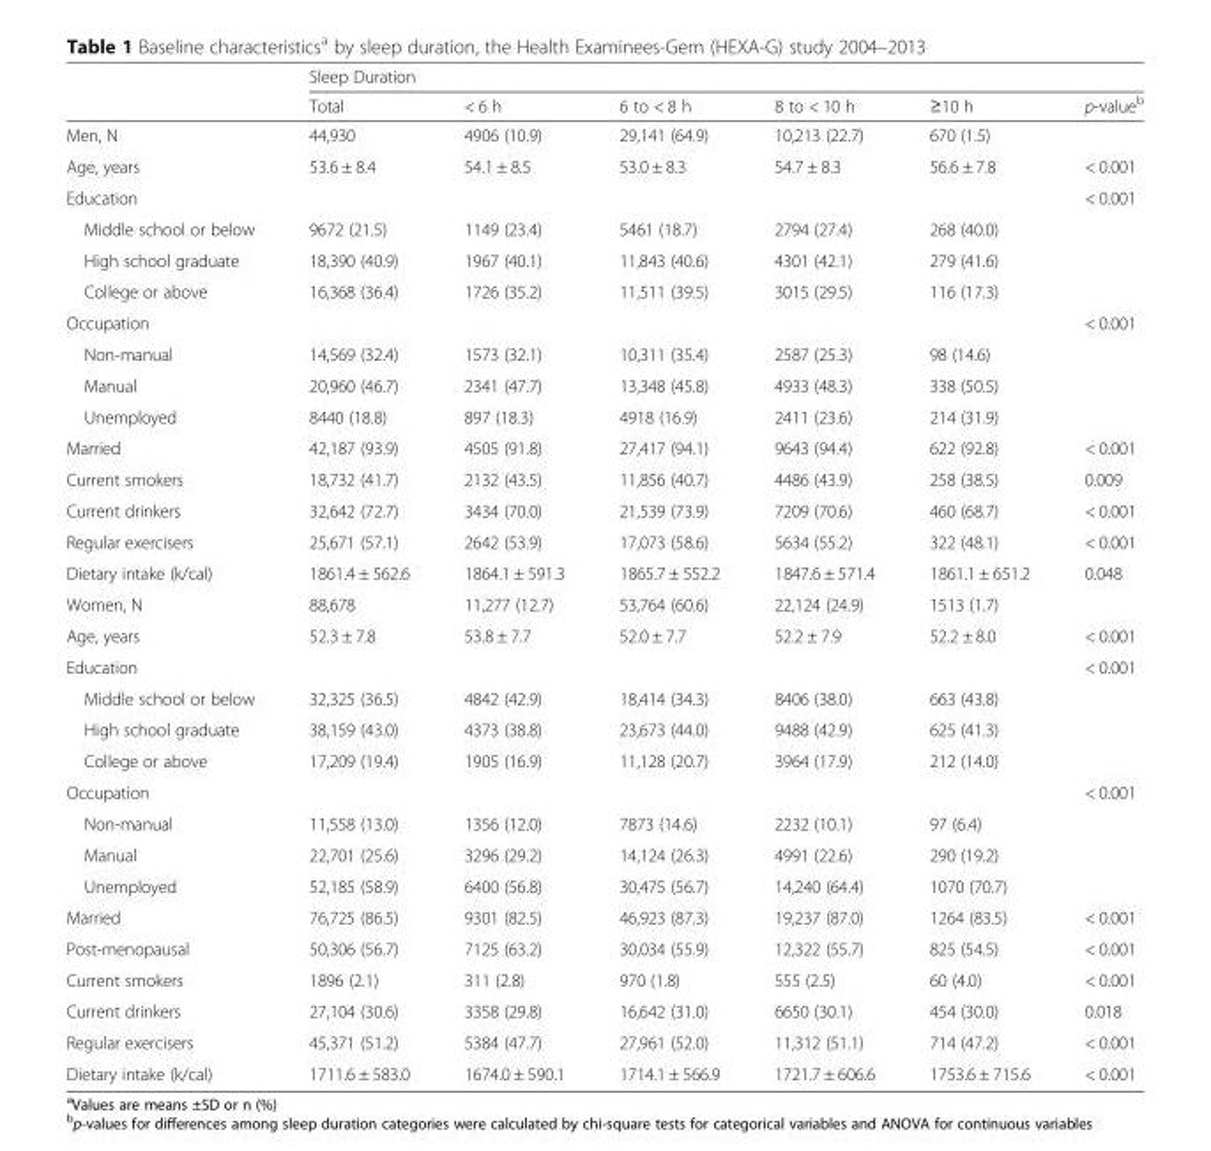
<table><thead><tr><td rowspan="2"></td><td colspan="6">Sleep Duration</td></tr><tr><td>Total</td><td>&lt; 6 h</td><td>6 to &lt; 8 h</td><td>8 to &lt; 10 h</td><td>≥10 h</td><td>p-value<sup>b</sup></td></tr></thead><tbody><tr><td>Men, N</td><td>44,930</td><td>4906 (10.9)</td><td>29,141 (64.9)</td><td>10,213 (22.7)</td><td>670 (1.5)</td><td></td></tr><tr><td>Age, years</td><td>53.6 ± 8.4</td><td>54.1 ± 8.5</td><td>53.0 ± 8.3</td><td>54.7 ± 8.3</td><td>56.6 ± 7.8</td><td>&lt; 0.001</td></tr><tr><td>Education</td><td></td><td></td><td></td><td></td><td></td><td>&lt; 0.001</td></tr><tr><td>Middle school or below</td><td>9672 (21.5)</td><td>1149 (23.4)</td><td>5461 (18.7)</td><td>2794 (27.4)</td><td>268 (40.0)</td><td></td></tr><tr><td>High school graduate</td><td>18,390 (40.9)</td><td>1967 (40.1)</td><td>11,843 (40.6)</td><td>4301 (42.1)</td><td>279 (41.6)</td><td></td></tr><tr><td>College or above</td><td>16,368 (36.4)</td><td>1726 (35.2)</td><td>11,511 (39.5)</td><td>3015 (29.5)</td><td>116 (17.3)</td><td></td></tr><tr><td>Occupation</td><td></td><td></td><td></td><td></td><td></td><td>&lt; 0.001</td></tr><tr><td>Non-manual</td><td>14,569 (32.4)</td><td>1573 (32.1)</td><td>10,311 (35.4)</td><td>2587 (25.3)</td><td>98 (14.6)</td><td></td></tr><tr><td>Manual</td><td>20,960 (46.7)</td><td>2341 (47.7)</td><td>13,348 (45.8)</td><td>4933 (48.3)</td><td>338 (50.5)</td><td></td></tr><tr><td>Unemployed</td><td>8440 (18.8)</td><td>897 (18.3)</td><td>4918 (16.9)</td><td>2411 (23.6)</td><td>214 (31.9)</td><td></td></tr><tr><td>Married</td><td>42,187 (93.9)</td><td>4505 (91.8)</td><td>27,417 (94.1)</td><td>9643 (94.4)</td><td>622 (92.8)</td><td>&lt; 0.001</td></tr><tr><td>Current smokers</td><td>18,732 (41.7)</td><td>2132 (43.5)</td><td>11,856 (40.7)</td><td>4486 (43.9)</td><td>258 (38.5)</td><td>0.009</td></tr><tr><td>Current drinkers</td><td>32,642 (72.7)</td><td>3434 (70.0)</td><td>21,539 (73.9)</td><td>7209 (70.6)</td><td>460 (68.7)</td><td>&lt; 0.001</td></tr><tr><td>Regular exercisers</td><td>25,671 (57.1)</td><td>2642 (53.9)</td><td>17,073 (58.6)</td><td>5634 (55.2)</td><td>322 (48.1)</td><td>&lt; 0.001</td></tr><tr><td>Dietary intake (k/cal)</td><td>1861.4 ± 562.6</td><td>1864.1 ± 591.3</td><td>1865.7 ± 552.2</td><td>1847.6 ± 571.4</td><td>1861.1 ± 651.2</td><td>0.048</td></tr><tr><td>Women, N</td><td>88,678</td><td>11,277 (12.7)</td><td>53,764 (60.6)</td><td>22,124 (24.9)</td><td>1513 (1.7)</td><td></td></tr><tr><td>Age, years</td><td>52.3 ± 7.8</td><td>53.8 ± 7.7</td><td>52.0 ± 7.7</td><td>52.2 ± 7.9</td><td>52.2 ± 8.0</td><td>&lt; 0.001</td></tr><tr><td>Education</td><td></td><td></td><td></td><td></td><td></td><td>&lt; 0.001</td></tr><tr><td>Middle school or below</td><td>32,325 (36.5)</td><td>4842 (42.9)</td><td>18,414 (34.3)</td><td>8406 (38.0)</td><td>663 (43.8)</td><td></td></tr><tr><td>High school graduate</td><td>38,159 (43.0)</td><td>4373 (38.8)</td><td>23,673 (44.0)</td><td>9488 (42.9)</td><td>625 (41.3)</td><td></td></tr><tr><td>College or above</td><td>17,209 (19.4)</td><td>1905 (16.9)</td><td>11,128 (20.7)</td><td>3964 (17.9)</td><td>212 (14.0)</td><td></td></tr><tr><td>Occupation</td><td></td><td></td><td></td><td></td><td></td><td>&lt; 0.001</td></tr><tr><td>Non-manual</td><td>11,558 (13.0)</td><td>1356 (12.0)</td><td>7873 (14.6)</td><td>2232 (10.1)</td><td>97 (6.4)</td><td></td></tr><tr><td>Manual</td><td>22,701 (25.6)</td><td>3296 (29.2)</td><td>14,124 (26.3)</td><td>4991 (22.6)</td><td>290 (19.2)</td><td></td></tr><tr><td>Unemployed</td><td>52,185 (58.9)</td><td>6400 (56.8)</td><td>30,475 (56.7)</td><td>14,240 (64.4)</td><td>1070 (70.7)</td><td></td></tr><tr><td>Married</td><td>76,725 (86.5)</td><td>9301 (82.5)</td><td>46,923 (87.3)</td><td>19,237 (87.0)</td><td>1264 (83.5)</td><td>&lt; 0.001</td></tr><tr><td>Post-menopausal</td><td>50,306 (56.7)</td><td>7125 (63.2)</td><td>30,034 (55.9)</td><td>12,322 (55.7)</td><td>825 (54.5)</td><td>&lt; 0.001</td></tr><tr><td>Current smokers</td><td>1896 (2.1)</td><td>311 (2.8)</td><td>970 (1.8)</td><td>555 (2.5)</td><td>60 (4.0)</td><td>&lt; 0.001</td></tr><tr><td>Current drinkers</td><td>27,104 (30.6)</td><td>3358 (29.8)</td><td>16,642 (31.0)</td><td>6650 (30.1)</td><td>454 (30.0)</td><td>0.018</td></tr><tr><td>Regular exercisers</td><td>45,371 (51.2)</td><td>5384 (47.7)</td><td>27,961 (52.0)</td><td>11,312 (51.1)</td><td>714 (47.2)</td><td>&lt; 0.001</td></tr><tr><td>Dietary intake (k/cal)</td><td>1711.6 ± 583.0</td><td>1674.0 ± 590.1</td><td>1714.1 ± 566.9</td><td>1721.7 ± 606.6</td><td>1753.6 ± 715.6</td><td>&lt; 0.001</td></tr></tbody></table>